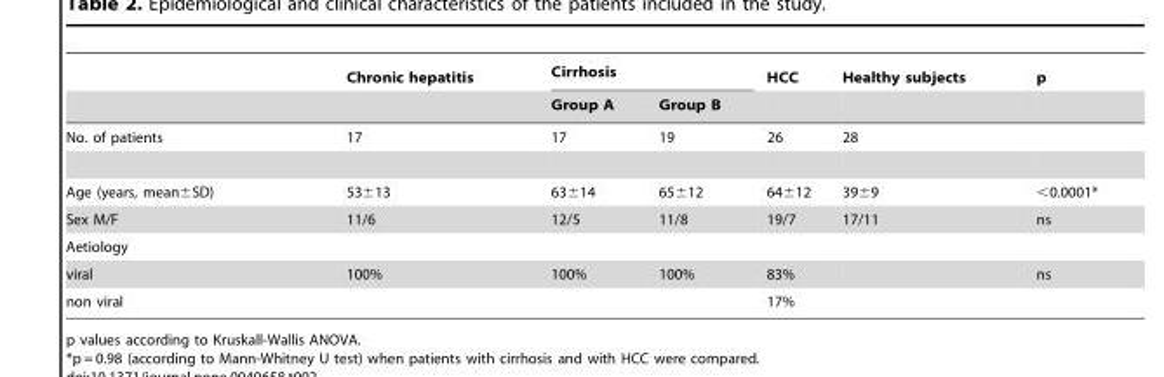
<table><thead><tr><td rowspan="2"></td><td rowspan="2">Chronic hepatitis</td><td colspan="2">Cirrhosis</td><td rowspan="2">HCC</td><td rowspan="2">Healthy subjects</td><td rowspan="2">p</td></tr><tr><td>Group A</td><td>Group B</td></tr></thead><tbody><tr><td>No. of patients</td><td>17</td><td>17</td><td>19</td><td>26</td><td>28</td><td></td></tr><tr><td>Age (years, mean±SD)</td><td>53±13</td><td>63±14</td><td>65±12</td><td>64±12</td><td>39±9</td><td>&lt;0.0001*</td></tr><tr><td>Sex M/F</td><td>11/6</td><td>12/5</td><td>11/8</td><td>19/7</td><td>17/11</td><td>ns</td></tr><tr><td colspan="7">Aetiology</td></tr><tr><td>viral</td><td>100%</td><td>100%</td><td>100%</td><td>83%</td><td></td><td>ns</td></tr><tr><td>non viral</td><td></td><td></td><td></td><td>17%</td><td></td><td></td></tr></tbody></table>